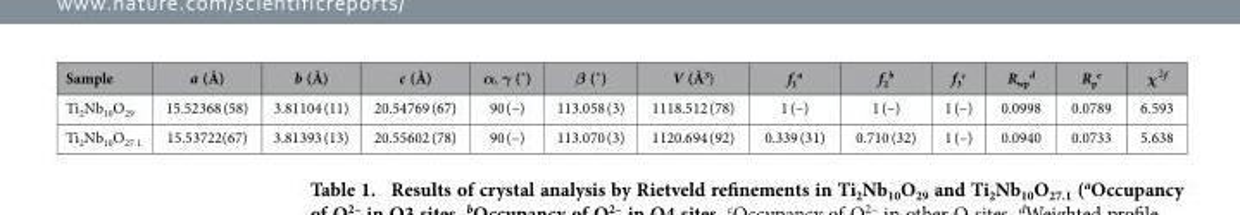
<table><thead><tr><td>Sample</td><td>a (Å)</td><td>b (Å)</td><td>c (Å)</td><td>α, γ (˚)</td><td>β (˚)</td><td>V (Å<sup>3</sup>)</td><td>f<sub>1</sub> <sup>a</sup></td><td>f<sub>2</sub> <sup>b</sup></td><td>f<sub>3</sub> <sup>c</sup></td><td>R<sub>wp</sub> <sup>d</sup></td><td>R<sub>p</sub> <sup>e</sup></td><td>χ2f</td></tr></thead><tbody><tr><td>Ti<sub>2</sub>Nb<sub>10</sub>O<sub>29</sub></td><td>15.52368 (58)</td><td>3.81104 (11)</td><td>20.54769 (67)</td><td>90 (–)</td><td>113.058 (3)</td><td>1118.512 (78)</td><td>1 (–)</td><td>1 (–)</td><td>1 (–)</td><td>0.0998</td><td>0.0789</td><td>6.593</td></tr><tr><td>Ti<sub>2</sub>Nb<sub>10</sub>O<sub>27.1</sub></td><td>15.53722(67)</td><td>3.81393 (13)</td><td>20.55602 (78)</td><td>90 (–)</td><td>113.070 (3)</td><td>1120.694 (92)</td><td>0.339 (31)</td><td>0.710 (32)</td><td>1 (–)</td><td>0.0940</td><td>0.0733</td><td>5.638</td></tr></tbody></table>